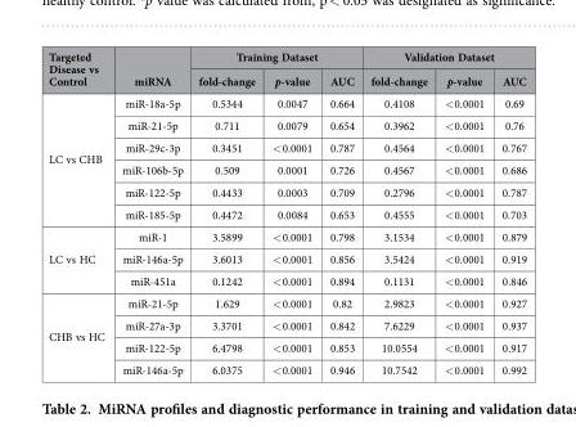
<table><thead><tr><td rowspan="2">Targeted Disease vs Control</td><td rowspan="2">miRNA</td><td colspan="3">Training Dataset</td><td colspan="3">Validation Dataset</td></tr><tr><td>fold-change</td><td>p-value</td><td>AUC</td><td>fold-change</td><td>p-value</td><td>AUC</td></tr></thead><tbody><tr><td rowspan="6">LC vs CHB</td><td>miR-18a-5p</td><td>0.5344</td><td>0.0047</td><td>0.664</td><td>0.4108</td><td>&lt; 0.0001</td><td>0.69</td></tr><tr><td>miR-21-5p</td><td>0.711</td><td>0.0079</td><td>0.654</td><td>0.3962</td><td>&lt; 0.0001</td><td>0.76</td></tr><tr><td>miR-29c-3p</td><td>0.3451</td><td>&lt; 0.0001</td><td>0.787</td><td>0.4564</td><td>&lt; 0.0001</td><td>0.767</td></tr><tr><td>miR-106b-5p</td><td>0.509</td><td>0.0001</td><td>0.726</td><td>0.4567</td><td>&lt; 0.0001</td><td>0.686</td></tr><tr><td>miR-122-5p</td><td>0.4433</td><td>0.0003</td><td>0.709</td><td>0.2796</td><td>&lt; 0.0001</td><td>0.787</td></tr><tr><td>miR-185-5p</td><td>0.4472</td><td>0.0084</td><td>0.653</td><td>0.4555</td><td>&lt; 0.0001</td><td>0.703</td></tr><tr><td rowspan="3">LC vs HC</td><td>miR-1</td><td>3.5899</td><td>&lt; 0.0001</td><td>0.798</td><td>3.1534</td><td>&lt; 0.0001</td><td>0.879</td></tr><tr><td>miR-146a-5p</td><td>3.6013</td><td>&lt; 0.0001</td><td>0.856</td><td>3.5424</td><td>&lt; 0.0001</td><td>0.919</td></tr><tr><td>miR-451a</td><td>0.1242</td><td>&lt; 0.0001</td><td>0.894</td><td>0.1131</td><td>&lt; 0.0001</td><td>0.846</td></tr><tr><td rowspan="4">CHB vs HC</td><td>miR-21-5p</td><td>1.629</td><td>&lt; 0.0001</td><td>0.82</td><td>2.9823</td><td>&lt; 0.0001</td><td>0.927</td></tr><tr><td>miR-27a-3p</td><td>3.3701</td><td>&lt; 0.0001</td><td>0.842</td><td>7.6229</td><td>&lt; 0.0001</td><td>0.937</td></tr><tr><td>miR-122-5p</td><td>6.4798</td><td>&lt; 0.0001</td><td>0.853</td><td>10.0554</td><td>&lt; 0.0001</td><td>0.917</td></tr><tr><td>miR-146a-5p</td><td>6.0375</td><td>&lt; 0.0001</td><td>0.946</td><td>10.7542</td><td>&lt; 0.0001</td><td>0.992</td></tr></tbody></table>